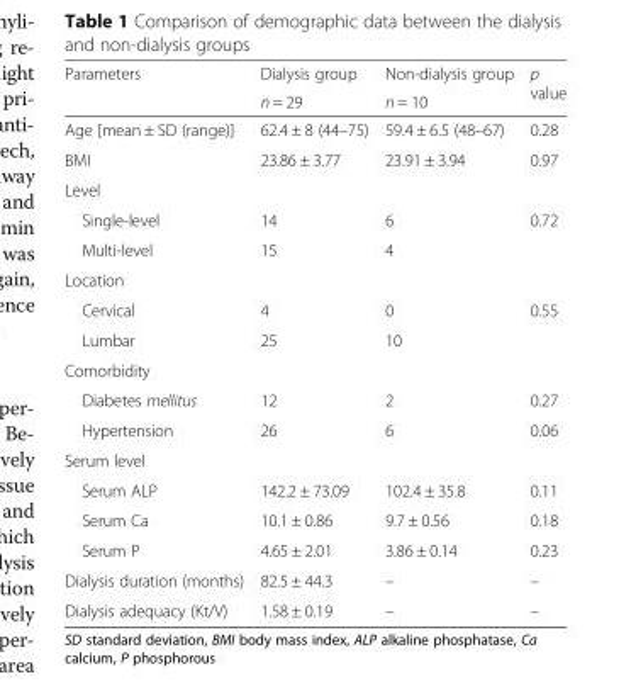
<table><thead><tr><td rowspan="2">Parameters</td><td rowspan="2">Dialysis group n = 29</td><td rowspan="2">Non-dialysis group n = 10</td><td rowspan="2">p value</td></tr><tr></tr></thead><tbody><tr><td>Age [mean ± SD (range)]</td><td>62.4 ± 8 (44–75)</td><td>59.4 ± 6.5 (48–67)</td><td>0.28</td></tr><tr><td>BMI</td><td>23.86 ± 3.77</td><td>23.91 ± 3.94</td><td>0.97</td></tr><tr><td colspan="4">Level</td></tr><tr><td>Single-level</td><td>14</td><td>6</td><td>0.72</td></tr><tr><td>Multi-level</td><td>15</td><td>4</td><td></td></tr><tr><td colspan="4">Location</td></tr><tr><td>Cervical</td><td>4</td><td>0</td><td>0.55</td></tr><tr><td>Lumbar</td><td>25</td><td>10</td><td></td></tr><tr><td colspan="4">Comorbidity</td></tr><tr><td>Diabetes mellitus</td><td>12</td><td>2</td><td>0.27</td></tr><tr><td>Hypertension</td><td>26</td><td>6</td><td>0.06</td></tr><tr><td colspan="4">Serum level</td></tr><tr><td>Serum ALP</td><td>142.2 ± 73.09</td><td>102.4 ± 35.8</td><td>0.11</td></tr><tr><td>Serum Ca</td><td>10.1 ± 0.86</td><td>9.7 ± 0.56</td><td>0.18</td></tr><tr><td>Serum P</td><td>4.65 ± 2.01</td><td>3.86 ± 0.14</td><td>0.23</td></tr><tr><td>Dialysis duration (months)</td><td>82.5 ± 44.3</td><td>–</td><td>–</td></tr><tr><td>Dialysis adequacy (Kt/V)</td><td>1.58 ± 0.19</td><td>–</td><td>–</td></tr></tbody></table>